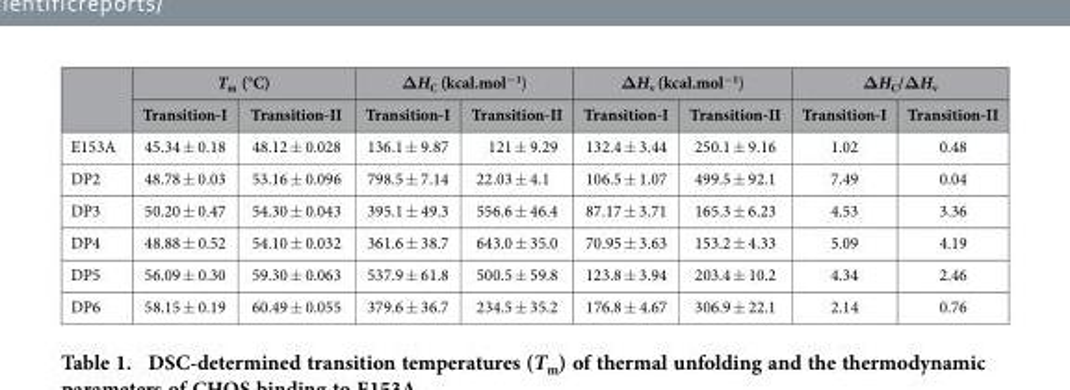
<table><thead><tr><td rowspan="2"></td><td colspan="2">T<sub>m</sub> (°C)</td><td colspan="2">ΔH<sub>C</sub> (kcal.mol<sup>−1</sup>)</td><td colspan="2">ΔH<sub>v</sub> (kcal.mol<sup>−1</sup>)</td><td colspan="2">ΔH<sub>C</sub>/ΔH<sub>v</sub></td></tr><tr><td>Transition-I</td><td>Transition-II</td><td>Transition-I</td><td>Transition-II</td><td>Transition-I</td><td>Transition-II</td><td>Transition-I</td><td>Transition-II</td></tr></thead><tbody><tr><td>E153A</td><td>45.34 ± 0.18</td><td>48.12 ± 0.028</td><td>136.1 ± 9.87</td><td>121 ± 9.29</td><td>132.4 ± 3.44</td><td>250.1 ± 9.16</td><td>1.02</td><td>0.48</td></tr><tr><td>DP2</td><td>48.78 ± 0.03</td><td>53.16 ± 0.096</td><td>798.5 ± 7.14</td><td>22.03 ± 4.1</td><td>106.5 ± 1.07</td><td>499.5 ± 92.1</td><td>7.49</td><td>0.04</td></tr><tr><td>DP3</td><td>50.20 ± 0.47</td><td>54.30 ± 0.043</td><td>395.1 ± 49.3</td><td>556.6 ± 46.4</td><td>87.17 ± 3.71</td><td>165.3 ± 6.23</td><td>4.53</td><td>3.36</td></tr><tr><td>DP4</td><td>48.88 ± 0.52</td><td>54.10 ± 0.032</td><td>361.6 ± 38.7</td><td>643.0 ± 35.0</td><td>70.95 ± 3.63</td><td>153.2 ± 4.33</td><td>5.09</td><td>4.19</td></tr><tr><td>DP5</td><td>56.09 ± 0.30</td><td>59.30 ± 0.063</td><td>537.9 ± 61.8</td><td>500.5 ± 59.8</td><td>123.8 ± 3.94</td><td>203.4 ± 10.2</td><td>4.34</td><td>2.46</td></tr><tr><td>DP6</td><td>58.15 ± 0.19</td><td>60.49 ± 0.055</td><td>379.6 ± 36.7</td><td>234.5 ± 35.2</td><td>176.8 ± 4.67</td><td>306.9 ± 22.1</td><td>2.14</td><td>0.76</td></tr></tbody></table>